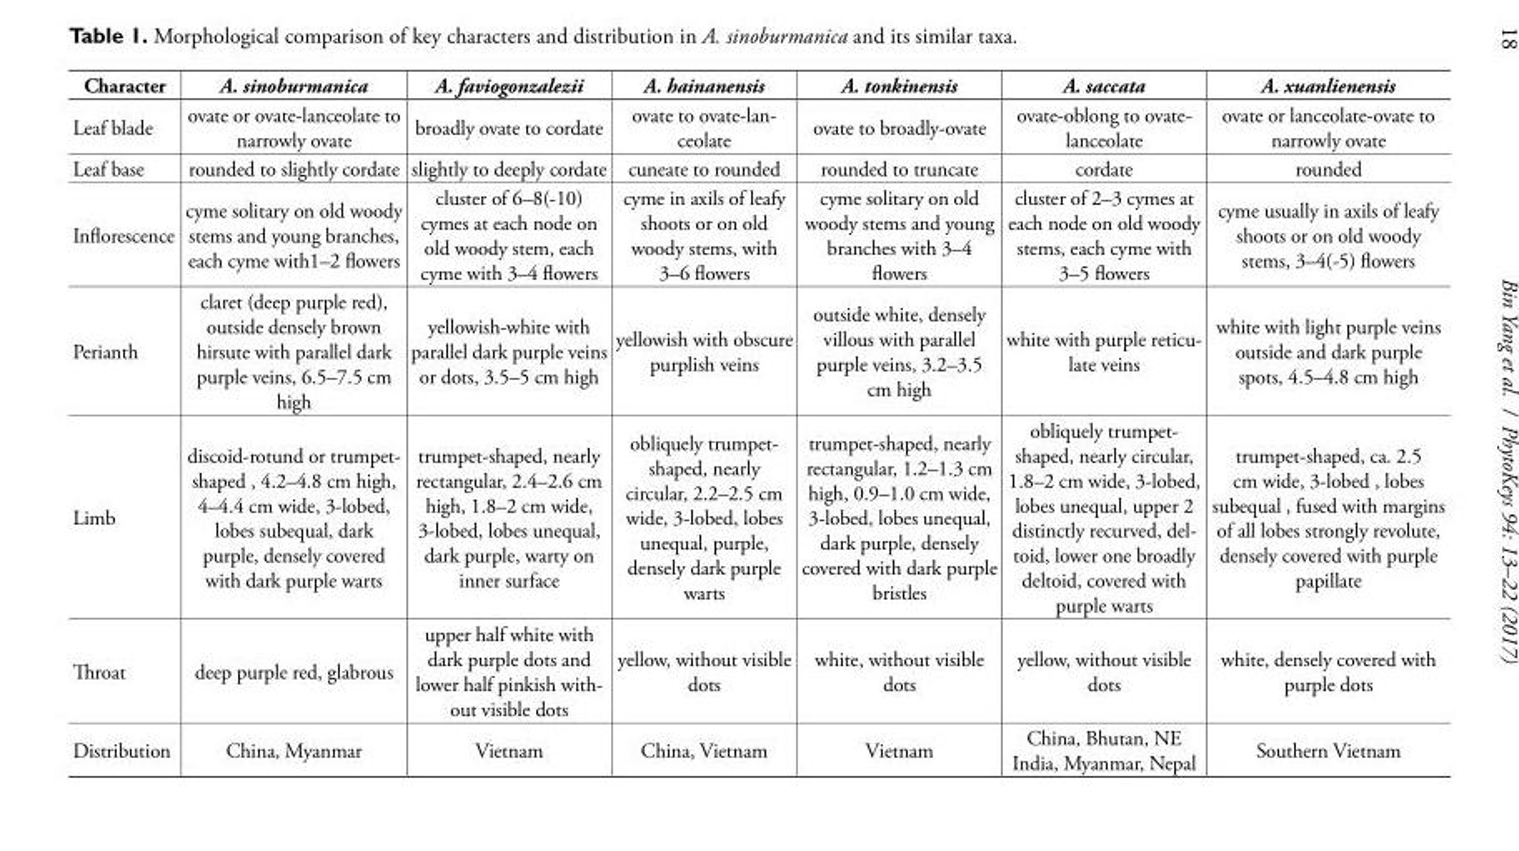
<table><thead><tr><td>Character</td><td>A. sinoburmanica</td><td>A. faviogonzalezii</td><td>A. hainanensis</td><td>A. tonkinensis</td><td>A. saccata</td><td>A. xuanlienensis</td></tr></thead><tbody><tr><td>Leaf blade</td><td>ovate or ovate-lanceolate to narrowly ovate</td><td>broadly ovate to cordate</td><td>ovate to ovate-lan- ceolate</td><td>ovate to broadly-ovate</td><td>ovate-oblong to ovate- lanceolate</td><td>ovate or lanceolate-ovate to narrowly ovate</td></tr><tr><td>Leaf base</td><td>rounded to slightly cordate</td><td>slightly to deeply cordate</td><td>cuneate to rounded</td><td>rounded to truncate</td><td>cordate</td><td>rounded</td></tr><tr><td>Inflorescence</td><td>cyme solitary on old woody stems and young branches, each cyme with1–2 flowers</td><td>cluster of 6–8(-10) cymes at each node on old woody stem, each cyme with 3–4 flowers</td><td>cyme in axils of leafy shoots or on old woody stems, with 3–6 flowers</td><td>cyme solitary on old woody stems and young branches with 3–4 flowers</td><td>cluster of 2–3 cymes at each node on old woody stems, each cyme with 3–5 flowers</td><td>cyme usually in axils of leafy shoots or on old woody stems, 3–4(-5) flowers</td></tr><tr><td>Perianth</td><td>claret (deep purple red), outside densely brown hirsute with parallel dark purple veins, 6.5–7.5 cm high</td><td>yellowish-white with parallel dark purple veins or dots, 3.5–5 cm high</td><td>yellowish with obscure purplish veins</td><td>outside white, densely villous with parallel purple veins, 3.2–3.5 cm high</td><td>white with purple reticu- late veins</td><td>white with light purple veins outside and dark purple spots, 4.5–4.8 cm high</td></tr><tr><td>Limb</td><td>discoid-rotund or trumpet- shaped , 4.2–4.8 cm high, 4–4.4 cm wide, 3-lobed, lobes subequal, dark purple, densely covered with dark purple warts</td><td>trumpet-shaped, nearly rectangular, 2.4–2.6 cm high, 1.8–2 cm wide, 3-lobed, lobes unequal, dark purple, warty on inner surface</td><td>obliquely trumpet- shaped, nearly circular, 2.2–2.5 cm wide, 3-lobed, lobes unequal, purple, densely dark purple warts</td><td>trumpet-shaped, nearly rectangular, 1.2–1.3 cm high, 0.9–1.0 cm wide, 3-lobed, lobes unequal, dark purple, densely covered with dark purple bristles</td><td>obliquely trumpet- shaped, nearly circular, 1.8–2 cm wide, 3-lobed, lobes unequal, upper 2 distinctly recurved, del- toid, lower one broadly deltoid, covered with purple warts</td><td>trumpet-shaped, ca. 2.5 cm wide, 3-lobed , lobes subequal , fused with margins of all lobes strongly revolute, densely covered with purple papillate</td></tr><tr><td>Throat</td><td>deep purple red, glabrous</td><td>upper half white with dark purple dots and lower half pinkish with- out visible dots</td><td>yellow, without visible dots</td><td>white, without visible dots</td><td>yellow, without visible dots</td><td>white, densely covered with purple dots</td></tr><tr><td>Distribution</td><td>China, Myanmar</td><td>Vietnam</td><td>China, Vietnam</td><td>Vietnam</td><td>China, Bhutan, NE India, Myanmar, Nepal</td><td>Southern Vietnam</td></tr></tbody></table>